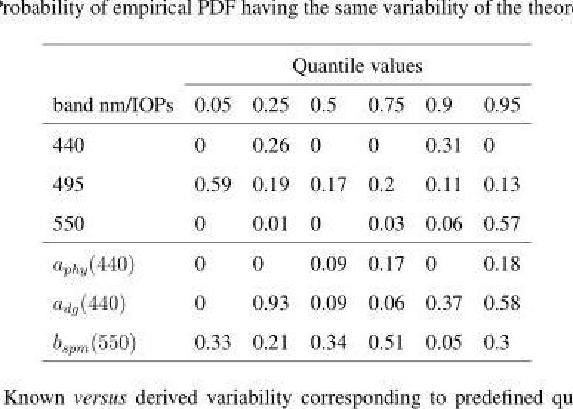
<table><thead><tr><td rowspan="2">band nm/IOPs</td><td colspan="6">Quantile values</td></tr><tr><td>0.05</td><td>0.25</td><td>0.5</td><td>0.75</td><td>0.9</td><td>0.95</td></tr></thead><tbody><tr><td>440</td><td>0</td><td>0.26</td><td>0</td><td>0</td><td>0.31</td><td>0</td></tr><tr><td>495</td><td>0.59</td><td>0.19</td><td>0.17</td><td>0.2</td><td>0.11</td><td>0.13</td></tr><tr><td>550</td><td>0</td><td>0.01</td><td>0</td><td>0.03</td><td>0.06</td><td>0.57</td></tr><tr><td>a<sub>phy</sub>(440)</td><td>0</td><td>0</td><td>0.09</td><td>0.17</td><td>0</td><td>0.18</td></tr><tr><td>a<sub>dg</sub>(440)</td><td>0</td><td>0.93</td><td>0.09</td><td>0.06</td><td>0.37</td><td>0.58</td></tr><tr><td>b<sub>spm</sub>(550)</td><td>0.33</td><td>0.21</td><td>0.34</td><td>0.51</td><td>0.05</td><td>0.3</td></tr></tbody></table>